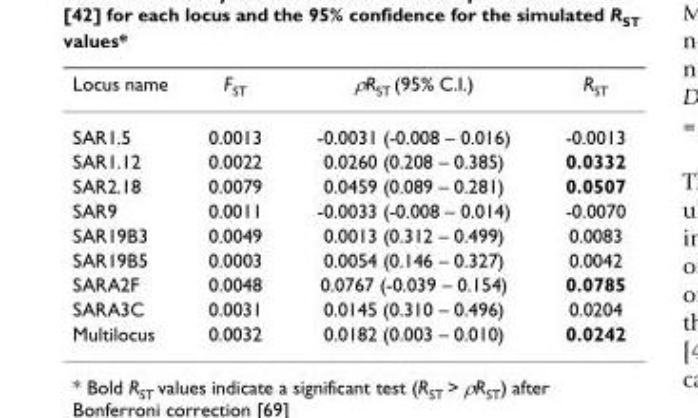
<table><thead><tr><td>Locus name</td><td>F<sub>ST</sub></td><td>ρR<sub>ST</sub> (95% C.I.)</td><td>R<sub>ST</sub></td></tr></thead><tbody><tr><td>SAR1.5</td><td>0.0013</td><td>-0.0031 (-0.008 – 0.016)</td><td>-0.0013</td></tr><tr><td>SAR1.12</td><td>0.0022</td><td>0.0260 (0.208 – 0.385)</td><td>0.0332</td></tr><tr><td>SAR2.18</td><td>0.0079</td><td>0.0459 (0.089 – 0.281)</td><td>0.0507</td></tr><tr><td>SAR9</td><td>0.0011</td><td>-0.0033 (-0.008 – 0.014)</td><td>-0.0070</td></tr><tr><td>SAR19B3</td><td>0.0049</td><td>0.0013 (0.312 – 0.499)</td><td>0.0083</td></tr><tr><td>SAR19B5</td><td>0.0003</td><td>0.0054 (0.146 – 0.327)</td><td>0.0042</td></tr><tr><td>SARA2F</td><td>0.0048</td><td>0.0767 (-0.039 – 0.154)</td><td>0.0785</td></tr><tr><td>SARA3C</td><td>0.0031</td><td>0.0145 (0.310 – 0.496)</td><td>0.0204</td></tr><tr><td>Multilocus</td><td>0.0032</td><td>0.0182 (0.003 – 0.010)</td><td>0.0242</td></tr></tbody></table>